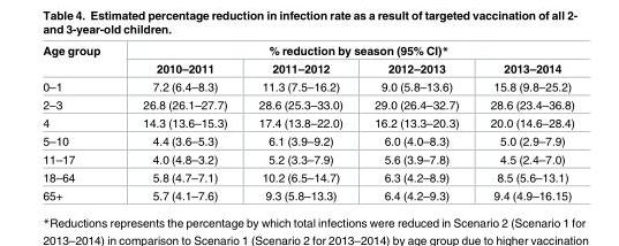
<table><thead><tr><td rowspan="2">Age group</td><td colspan="4">% reduction by season (95% CI)*</td></tr><tr><td>2010–2011</td><td>2011–2012</td><td>2012–2013</td><td>2013–2014</td></tr></thead><tbody><tr><td>0–1</td><td>7.2 (6.4–8.3)</td><td>11.3 (7.5–16.2)</td><td>9.0 (5.8–13.6)</td><td>15.8 (9.8–25.2)</td></tr><tr><td>2–3</td><td>26.8 (26.1–27.7)</td><td>28.6 (25.3–33.0)</td><td>29.0 (26.4–32.7)</td><td>28.6 (23.4–36.8)</td></tr><tr><td>4</td><td>14.3 (13.6–15.3)</td><td>17.4 (13.8–22.0)</td><td>16.2 (13.3–20.3)</td><td>20.0 (14.6–28.4)</td></tr><tr><td>5–10</td><td>4.4 (3.6–5.3)</td><td>6.1 (3.9–9.2)</td><td>6.0 (4.0–8.3)</td><td>5.0 (2.9–7.9)</td></tr><tr><td>11–17</td><td>4.0 (4.8–3.2)</td><td>5.2 (3.3–7.9)</td><td>5.6 (3.9–7.8)</td><td>4.5 (2.4–7.0)</td></tr><tr><td>18–64</td><td>5.8 (4.7–7.1)</td><td>10.2 (6.5–14.7)</td><td>6.3 (4.2–8.9)</td><td>8.5 (5.6–13.1)</td></tr><tr><td>65+</td><td>5.7 (4.1–7.6)</td><td>9.3 (5.8–13.3)</td><td>6.4 (4.2–9.3)</td><td>9.4 (4.9–16.15)</td></tr></tbody></table>